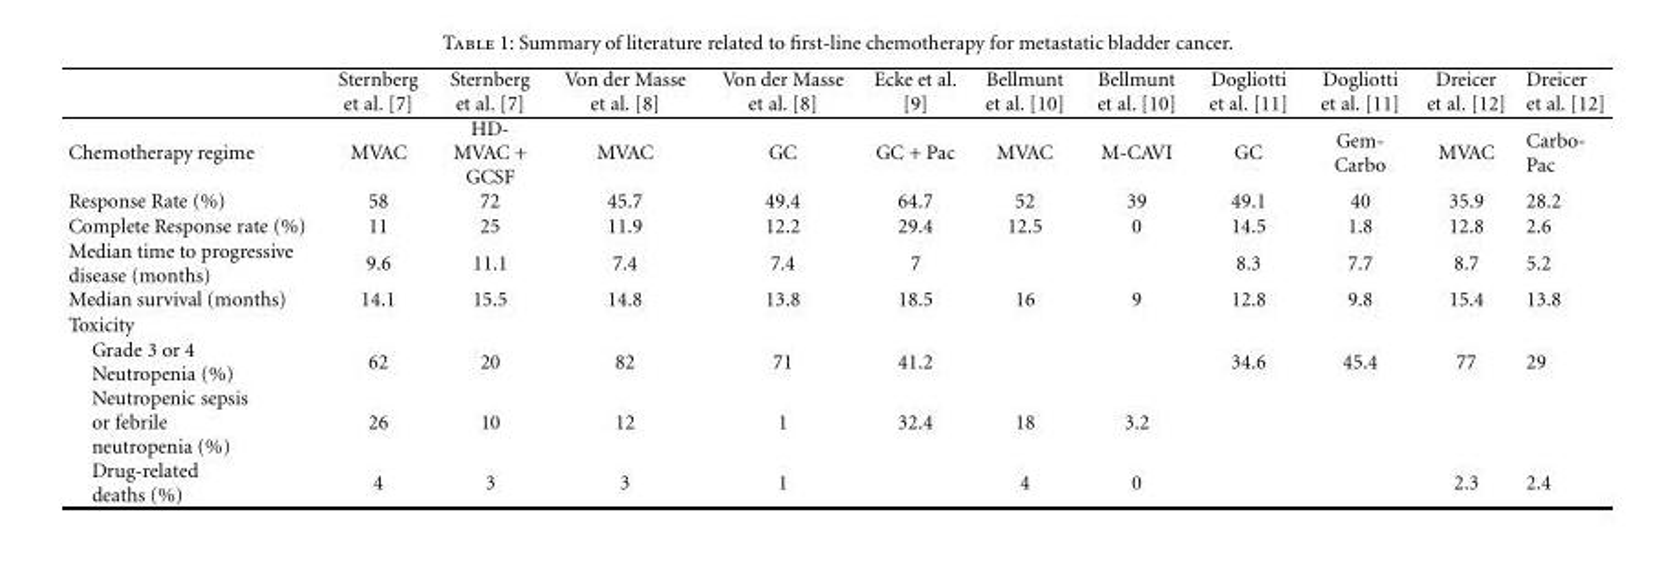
<table><thead><tr><td></td><td>Sternberg et al. [7]</td><td>Sternberg et al. [7]</td><td>Von der Masse et al. [8]</td><td>Von der Masse et al. [8]</td><td>Ecke et al. [9]</td><td>Bellmunt et al. [10]</td><td>Bellmunt et al. [10]</td><td>Dogliotti et al. [11]</td><td>Dogliotti et al. [11]</td><td>Dreicer et al. [12]</td><td>Dreicer et al. [12]</td></tr></thead><tbody><tr><td>Chemotherapy regime</td><td>MVAC</td><td>HD- MVAC + GCSF</td><td>MVAC</td><td>GC</td><td>GC + Pac</td><td>MVAC</td><td>M-CAVI</td><td>GC</td><td>Gem- Carbo</td><td>MVAC</td><td>Carbo- Pac</td></tr><tr><td>Response Rate (%)</td><td>58</td><td>72</td><td>45.7</td><td>49.4</td><td>64.7</td><td>52</td><td>39</td><td>49.1</td><td>40</td><td>35.9</td><td>28.2</td></tr><tr><td>Complete Response rate (%)</td><td>11</td><td>25</td><td>11.9</td><td>12.2</td><td>29.4</td><td>12.5</td><td>0</td><td>14.5</td><td>1.8</td><td>12.8</td><td>2.6</td></tr><tr><td>Median time to progressive disease (months)</td><td>9.6</td><td>11.1</td><td>7.4</td><td>7.4</td><td>7</td><td></td><td></td><td>8.3</td><td>7.7</td><td>8.7</td><td>5.2</td></tr><tr><td>Median survival (months)</td><td>14.1</td><td>15.5</td><td>14.8</td><td>13.8</td><td>18.5</td><td>16</td><td>9</td><td>12.8</td><td>9.8</td><td>15.4</td><td>13.8</td></tr><tr><td colspan="12">Toxicity</td></tr><tr><td>Grade 3 or 4 Neutropenia (%)</td><td>62</td><td>20</td><td>82</td><td>71</td><td>41.2</td><td></td><td></td><td>34.6</td><td>45.4</td><td>77</td><td>29</td></tr><tr><td>Neutropenic sepsis or febrile neutropenia (%)</td><td>26</td><td>10</td><td>12</td><td>1</td><td>32.4</td><td>18</td><td>3.2</td><td></td><td></td><td></td><td></td></tr><tr><td>Drug-related deaths (%)</td><td>4</td><td>3</td><td>3</td><td>1</td><td></td><td>4</td><td>0</td><td></td><td></td><td>2.3</td><td>2.4</td></tr></tbody></table>